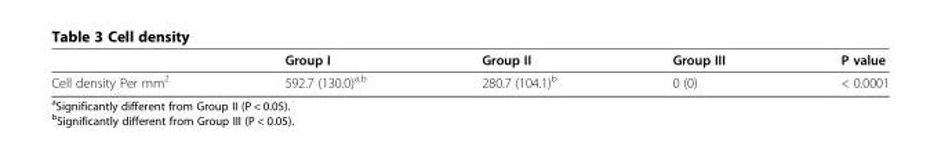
<table><thead><tr><td></td><td>Group I</td><td>Group II</td><td>Group III</td><td>P value</td></tr></thead><tbody><tr><td>Cell density Per mm<sup>2</sup></td><td>592.7 (130.0)<sup>a,b</sup></td><td>280.7 (104.1)<sup>b</sup></td><td>0 (0)</td><td>&lt; 0.0001</td></tr></tbody></table>